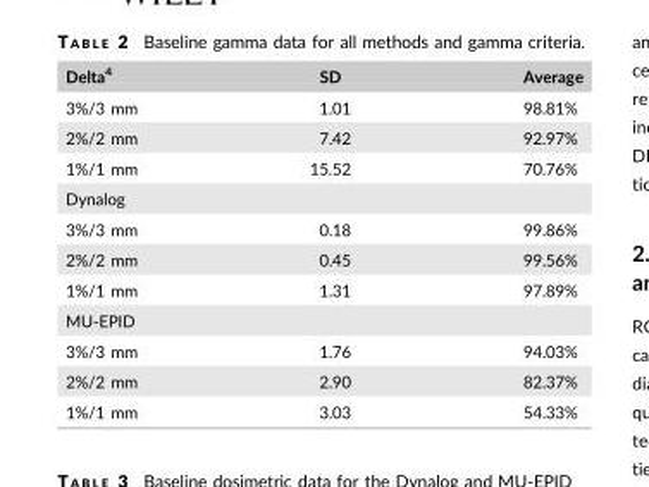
<table><thead><tr><td>Delta<sup>4</sup></td><td>SD</td><td>Average</td></tr></thead><tbody><tr><td>3%/3 mm</td><td>1.01</td><td>98.81%</td></tr><tr><td>2%/2 mm</td><td>7.42</td><td>92.97%</td></tr><tr><td>1%/1 mm</td><td>15.52</td><td>70.76%</td></tr><tr><td colspan="3">Dynalog</td></tr><tr><td>3%/3 mm</td><td>0.18</td><td>99.86%</td></tr><tr><td>2%/2 mm</td><td>0.45</td><td>99.56%</td></tr><tr><td>1%/1 mm</td><td>1.31</td><td>97.89%</td></tr><tr><td colspan="3">MU-EPID</td></tr><tr><td>3%/3 mm</td><td>1.76</td><td>94.03%</td></tr><tr><td>2%/2 mm</td><td>2.90</td><td>82.37%</td></tr><tr><td>1%/1 mm</td><td>3.03</td><td>54.33%</td></tr></tbody></table>